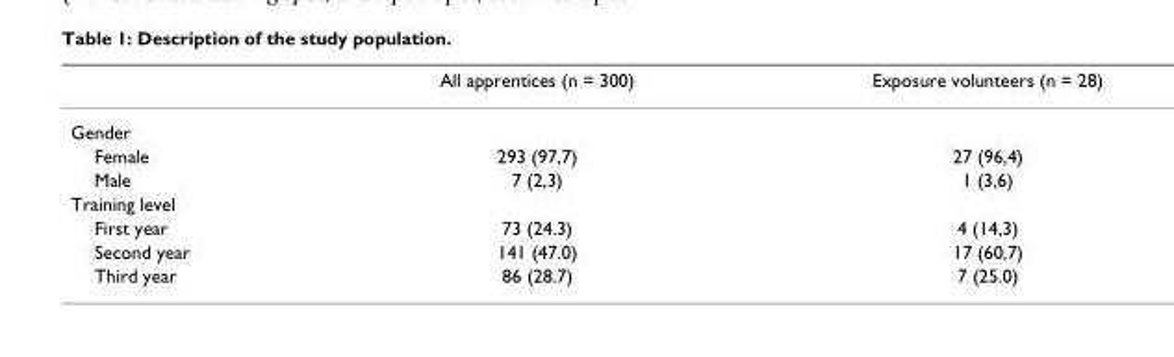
<table><thead><tr><td></td><td>All apprentices (n = 300)</td><td>Exposure volunteers (n = 28)</td></tr></thead><tbody><tr><td colspan="3">Gender</td></tr><tr><td>Female</td><td>293 (97,7)</td><td>27 (96,4)</td></tr><tr><td>Male</td><td>7 (2,3)</td><td>1 (3,6)</td></tr><tr><td colspan="3">Training level</td></tr><tr><td>First year</td><td>73 (24.3)</td><td>4 (14,3)</td></tr><tr><td>Second year</td><td>141 (47.0)</td><td>17 (60,7)</td></tr><tr><td>Third year</td><td>86 (28.7)</td><td>7 (25.0)</td></tr></tbody></table>